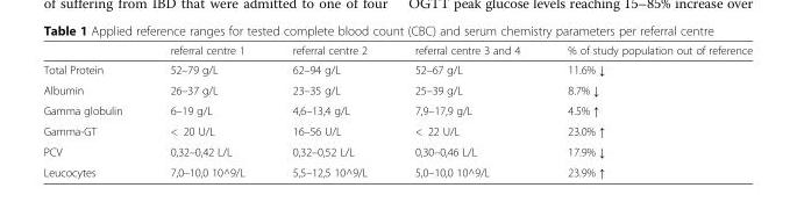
<table><thead><tr><td></td><td>referral centre 1</td><td>referral centre 2</td><td>referral centre 3 and 4</td><td>% of study population out of reference</td></tr></thead><tbody><tr><td>Total Protein</td><td>52–79 g/L</td><td>62–94 g/L</td><td>52–67 g/L</td><td>11.6% ↓</td></tr><tr><td>Albumin</td><td>26–37 g/L</td><td>23–35 g/L</td><td>25–39 g/L</td><td>8.7% ↓</td></tr><tr><td>Gamma globulin</td><td>6–19 g/L</td><td>4,6–13,4 g/L</td><td>7,9–17,9 g/L</td><td>4.5% ↑</td></tr><tr><td>Gamma-GT</td><td>&lt; 20 U/L</td><td>16–56 U/L</td><td>&lt; 22 U/L</td><td>23.0% ↑</td></tr><tr><td>PCV</td><td>0,32–0,42 L/L</td><td>0,32–0,52 L/L</td><td>0,30–0,46 L/L</td><td>17.9% ↓</td></tr><tr><td>Leucocytes</td><td>7,0–10,0 10^9/L</td><td>5,5–12,5 10^9/L</td><td>5,0–10,0 10^9/L</td><td>23.9% ↑</td></tr></tbody></table>